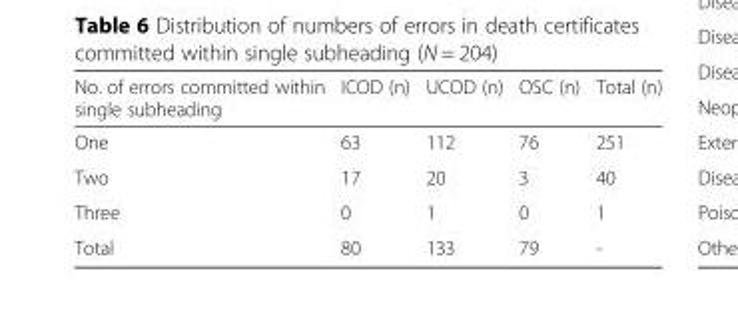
<table><thead><tr><td>No. of errors committed within single subheading</td><td>ICOD (n)</td><td>UCOD (n)</td><td>OSC (n)</td><td>Total (n)</td></tr></thead><tbody><tr><td>One</td><td>63</td><td>112</td><td>76</td><td>251</td></tr><tr><td>Two</td><td>17</td><td>20</td><td>3</td><td>40</td></tr><tr><td>Three</td><td>0</td><td>1</td><td>0</td><td>1</td></tr><tr><td>Total</td><td>80</td><td>133</td><td>79</td><td>-</td></tr></tbody></table>